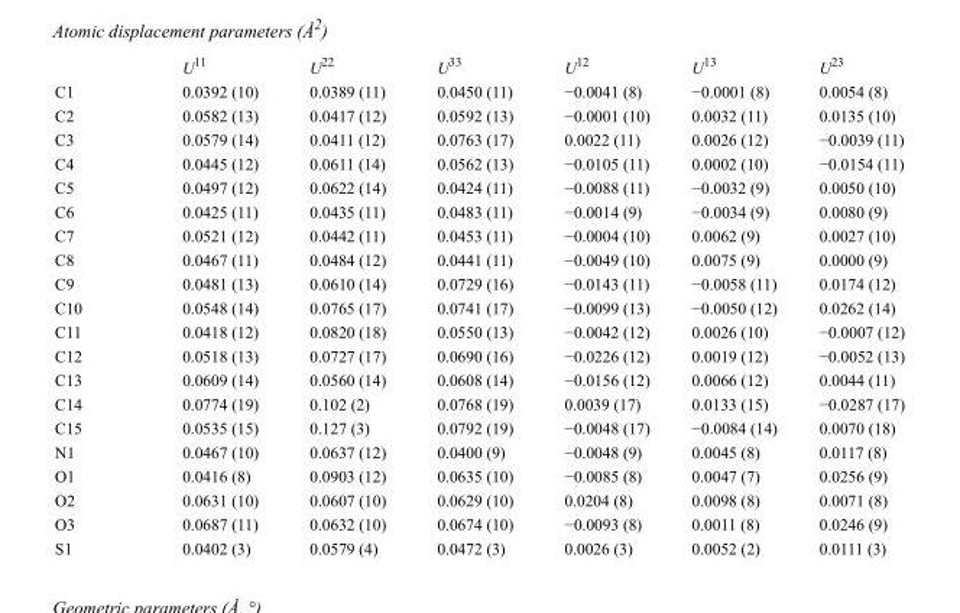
<table><thead><tr><td></td><td>U<sup>11</sup></td><td>U<sup>22</sup></td><td>U<sup>33</sup></td><td>U<sup>12</sup></td><td>U<sup>13</sup></td><td>U<sup>23</sup></td></tr></thead><tbody><tr><td>C1</td><td>0.0392 (10)</td><td>0.0389 (11)</td><td>0.0450 (11)</td><td>−0.0041 (8)</td><td>−0.0001 (8)</td><td>0.0054 (8)</td></tr><tr><td>C2</td><td>0.0582 (13)</td><td>0.0417 (12)</td><td>0.0592 (13)</td><td>−0.0001 (10)</td><td>0.0032 (11)</td><td>0.0135 (10)</td></tr><tr><td>C3</td><td>0.0579 (14)</td><td>0.0411 (12)</td><td>0.0763 (17)</td><td>0.0022 (11)</td><td>0.0026 (12)</td><td>−0.0039 (11)</td></tr><tr><td>C4</td><td>0.0445 (12)</td><td>0.0611 (14)</td><td>0.0562 (13)</td><td>−0.0105 (11)</td><td>0.0002 (10)</td><td>−0.0154 (11)</td></tr><tr><td>C5</td><td>0.0497 (12)</td><td>0.0622 (14)</td><td>0.0424 (11)</td><td>−0.0088 (11)</td><td>−0.0032 (9)</td><td>0.0050 (10)</td></tr><tr><td>C6</td><td>0.0425 (11)</td><td>0.0435 (11)</td><td>0.0483 (11)</td><td>−0.0014 (9)</td><td>−0.0034 (9)</td><td>0.0080 (9)</td></tr><tr><td>C7</td><td>0.0521 (12)</td><td>0.0442 (11)</td><td>0.0453 (11)</td><td>−0.0004 (10)</td><td>0.0062 (9)</td><td>0.0027 (10)</td></tr><tr><td>C8</td><td>0.0467 (11)</td><td>0.0484 (12)</td><td>0.0441 (11)</td><td>−0.0049 (10)</td><td>0.0075 (9)</td><td>0.0000 (9)</td></tr><tr><td>C9</td><td>0.0481 (13)</td><td>0.0610 (14)</td><td>0.0729 (16)</td><td>−0.0143 (11)</td><td>−0.0058 (11)</td><td>0.0174 (12)</td></tr><tr><td>C10</td><td>0.0548 (14)</td><td>0.0765 (17)</td><td>0.0741 (17)</td><td>−0.0099 (13)</td><td>−0.0050 (12)</td><td>0.0262 (14)</td></tr><tr><td>C11</td><td>0.0418 (12)</td><td>0.0820 (18)</td><td>0.0550 (13)</td><td>−0.0042 (12)</td><td>0.0026 (10)</td><td>−0.0007 (12)</td></tr><tr><td>C12</td><td>0.0518 (13)</td><td>0.0727 (17)</td><td>0.0690 (16)</td><td>−0.0226 (12)</td><td>0.0019 (12)</td><td>−0.0052 (13)</td></tr><tr><td>C13</td><td>0.0609 (14)</td><td>0.0560 (14)</td><td>0.0608 (14)</td><td>−0.0156 (12)</td><td>0.0066 (12)</td><td>0.0044 (11)</td></tr><tr><td>C14</td><td>0.0774 (19)</td><td>0.102 (2)</td><td>0.0768 (19)</td><td>0.0039 (17)</td><td>0.0133 (15)</td><td>−0.0287 (17)</td></tr><tr><td>C15</td><td>0.0535 (15)</td><td>0.127 (3)</td><td>0.0792 (19)</td><td>−0.0048 (17)</td><td>−0.0084 (14)</td><td>0.0070 (18)</td></tr><tr><td>N1</td><td>0.0467 (10)</td><td>0.0637 (12)</td><td>0.0400 (9)</td><td>−0.0048 (9)</td><td>0.0045 (8)</td><td>0.0117 (8)</td></tr><tr><td>O1</td><td>0.0416 (8)</td><td>0.0903 (12)</td><td>0.0635 (10)</td><td>−0.0085 (8)</td><td>0.0047 (7)</td><td>0.0256 (9)</td></tr><tr><td>O2</td><td>0.0631 (10)</td><td>0.0607 (10)</td><td>0.0629 (10)</td><td>0.0204 (8)</td><td>0.0098 (8)</td><td>0.0071 (8)</td></tr><tr><td>O3</td><td>0.0687 (11)</td><td>0.0632 (10)</td><td>0.0674 (10)</td><td>−0.0093 (8)</td><td>0.0011 (8)</td><td>0.0246 (9)</td></tr><tr><td>S1</td><td>0.0402 (3)</td><td>0.0579 (4)</td><td>0.0472 (3)</td><td>0.0026 (3)</td><td>0.0052 (2)</td><td>0.0111 (3)</td></tr></tbody></table>